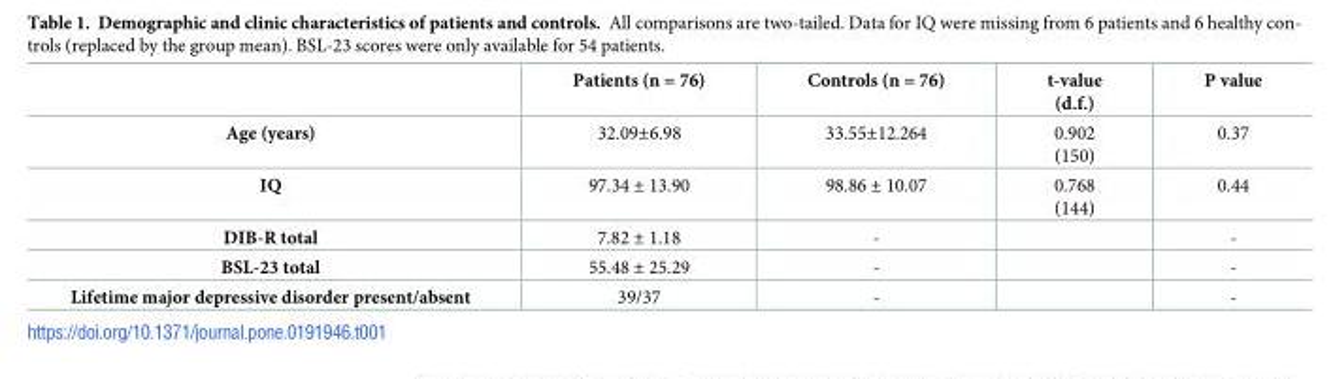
<table><thead><tr><td></td><td>Patients (n = 76)</td><td>Controls (n = 76)</td><td>t-value (d.f.)</td><td>P value</td></tr></thead><tbody><tr><td>Age (years)</td><td>32.09±6.98</td><td>33.55±12.264</td><td>0.902 (150)</td><td>0.37</td></tr><tr><td>IQ</td><td>97.34 ± 13.90</td><td>98.86 ± 10.07</td><td>0.768 (144)</td><td>0.44</td></tr><tr><td>DIB-R total</td><td>7.82 ± 1.18</td><td>-</td><td></td><td>-</td></tr><tr><td>BSL-23 total</td><td>55.48 ± 25.29</td><td>-</td><td></td><td>-</td></tr><tr><td>Lifetime major depressive disorder present/absent</td><td>39/37</td><td>-</td><td></td><td>-</td></tr></tbody></table>